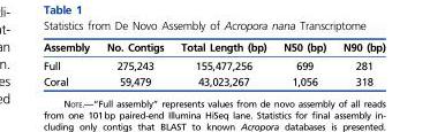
<table><thead><tr><td>Assembly</td><td>No. Contigs</td><td>Total Length (bp)</td><td>N50 (bp)</td><td>N90 (bp)</td></tr></thead><tbody><tr><td>Full</td><td>275,243</td><td>155,477,256</td><td>699</td><td>281</td></tr><tr><td>Coral</td><td>59,479</td><td>43,023,267</td><td>1,056</td><td>318</td></tr></tbody></table>